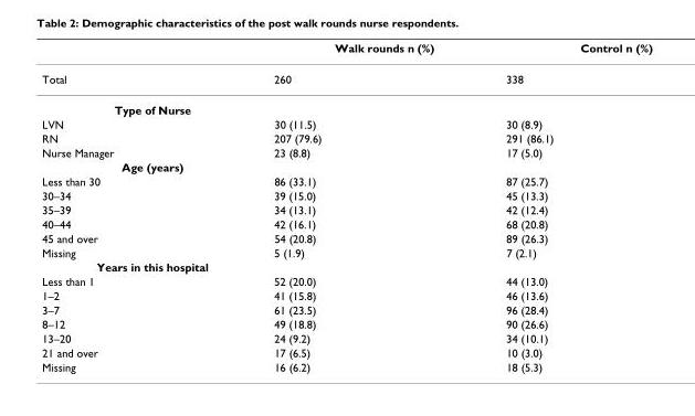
<table><thead><tr><td></td><td>Walk rounds n (%)</td><td>Control n (%)</td></tr></thead><tbody><tr><td>Total</td><td>260</td><td>338</td></tr><tr><td colspan="3">Type of Nurse</td></tr><tr><td>LVN</td><td>30 (11.5)</td><td>30 (8.9)</td></tr><tr><td>RN</td><td>207 (79.6)</td><td>291 (86.1)</td></tr><tr><td>Nurse Manager</td><td>23 (8.8)</td><td>17 (5.0)</td></tr><tr><td colspan="3">Age (years)</td></tr><tr><td>Less than 30</td><td>86 (33.1)</td><td>87 (25.7)</td></tr><tr><td>30–34</td><td>39 (15.0)</td><td>45 (13.3)</td></tr><tr><td>35–39</td><td>34 (13.1)</td><td>42 (12.4)</td></tr><tr><td>40–44</td><td>42 (16.1)</td><td>68 (20.8)</td></tr><tr><td>45 and over</td><td>54 (20.8)</td><td>89 (26.3)</td></tr><tr><td>Missing</td><td>5 (1.9)</td><td>7 (2.1)</td></tr><tr><td colspan="3">Years in this hospital</td></tr><tr><td>Less than 1</td><td>52 (20.0)</td><td>44 (13.0)</td></tr><tr><td>1–2</td><td>41 (15.8)</td><td>46 (13.6)</td></tr><tr><td>3–7</td><td>61 (23.5)</td><td>96 (28.4)</td></tr><tr><td>8–12</td><td>49 (18.8)</td><td>90 (26.6)</td></tr><tr><td>13–20</td><td>24 (9.2)</td><td>34 (10.1)</td></tr><tr><td>21 and over</td><td>17 (6.5)</td><td>10 (3.0)</td></tr><tr><td>Missing</td><td>16 (6.2)</td><td>18 (5.3)</td></tr></tbody></table>